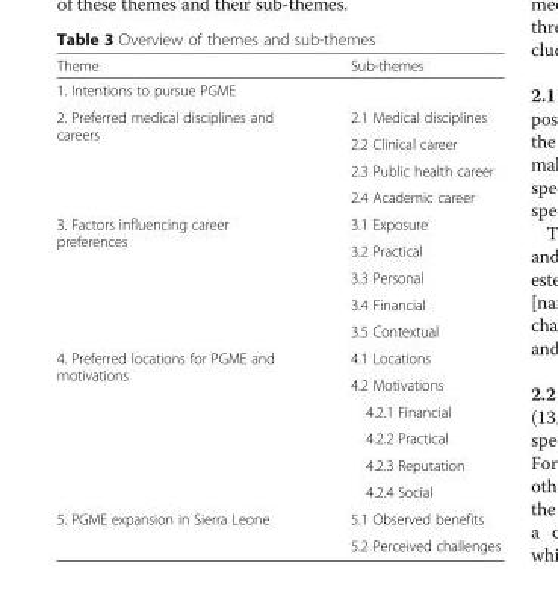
<table><thead><tr><td>Theme</td><td>Sub-themes</td></tr></thead><tbody><tr><td colspan="2">1. Intentions to pursue PGME</td></tr><tr><td rowspan="4">2. Preferred medical disciplines and careers</td><td>2.1 Medical disciplines</td></tr><tr><td>2.2 Clinical career</td></tr><tr><td>2.3 Public health career</td></tr><tr><td>2.4 Academic career</td></tr><tr><td rowspan="5">3. Factors influencing career preferences</td><td>3.1 Exposure</td></tr><tr><td>3.2 Practical</td></tr><tr><td>3.3 Personal</td></tr><tr><td>3.4 Financial</td></tr><tr><td>3.5 Contextual</td></tr><tr><td rowspan="6">4. Preferred locations for PGME and motivations</td><td>4.1 Locations</td></tr><tr><td>4.2 Motivations</td></tr><tr><td>4.2.1 Financial</td></tr><tr><td>4.2.2 Practical</td></tr><tr><td>4.2.3 Reputation</td></tr><tr><td>4.2.4 Social</td></tr><tr><td rowspan="2">5. PGME expansion in Sierra Leone</td><td>5.1 Observed benefits</td></tr><tr><td>5.2 Perceived challenges</td></tr></tbody></table>